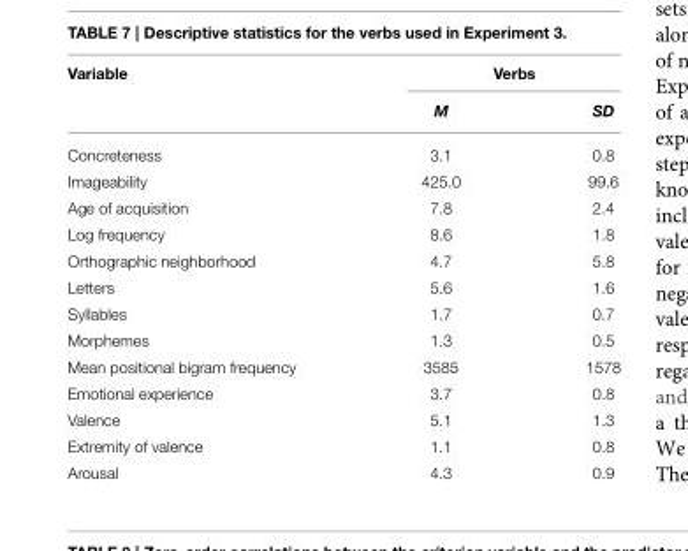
<table><thead><tr><td rowspan="2">Variable</td><td colspan="2">Verbs</td></tr><tr><td>M</td><td>SD</td></tr></thead><tbody><tr><td>Concreteness</td><td>3.1</td><td>0.8</td></tr><tr><td>Imageability</td><td>425.0</td><td>99.6</td></tr><tr><td>Age of acquisition</td><td>7.8</td><td>2.4</td></tr><tr><td>Log frequency</td><td>8.6</td><td>1.8</td></tr><tr><td>Orthographic neighborhood</td><td>4.7</td><td>5.8</td></tr><tr><td>Letters</td><td>5.6</td><td>1.6</td></tr><tr><td>Syllables</td><td>1.7</td><td>0.7</td></tr><tr><td>Morphemes</td><td>1.3</td><td>0.5</td></tr><tr><td>Mean positional bigram frequency</td><td>3585</td><td>1578</td></tr><tr><td>Emotional experience</td><td>3.7</td><td>0.8</td></tr><tr><td>Valence</td><td>5.1</td><td>1.3</td></tr><tr><td>Extremity of valence</td><td>1.1</td><td>0.8</td></tr><tr><td>Arousal</td><td>4.3</td><td>0.9</td></tr></tbody></table>